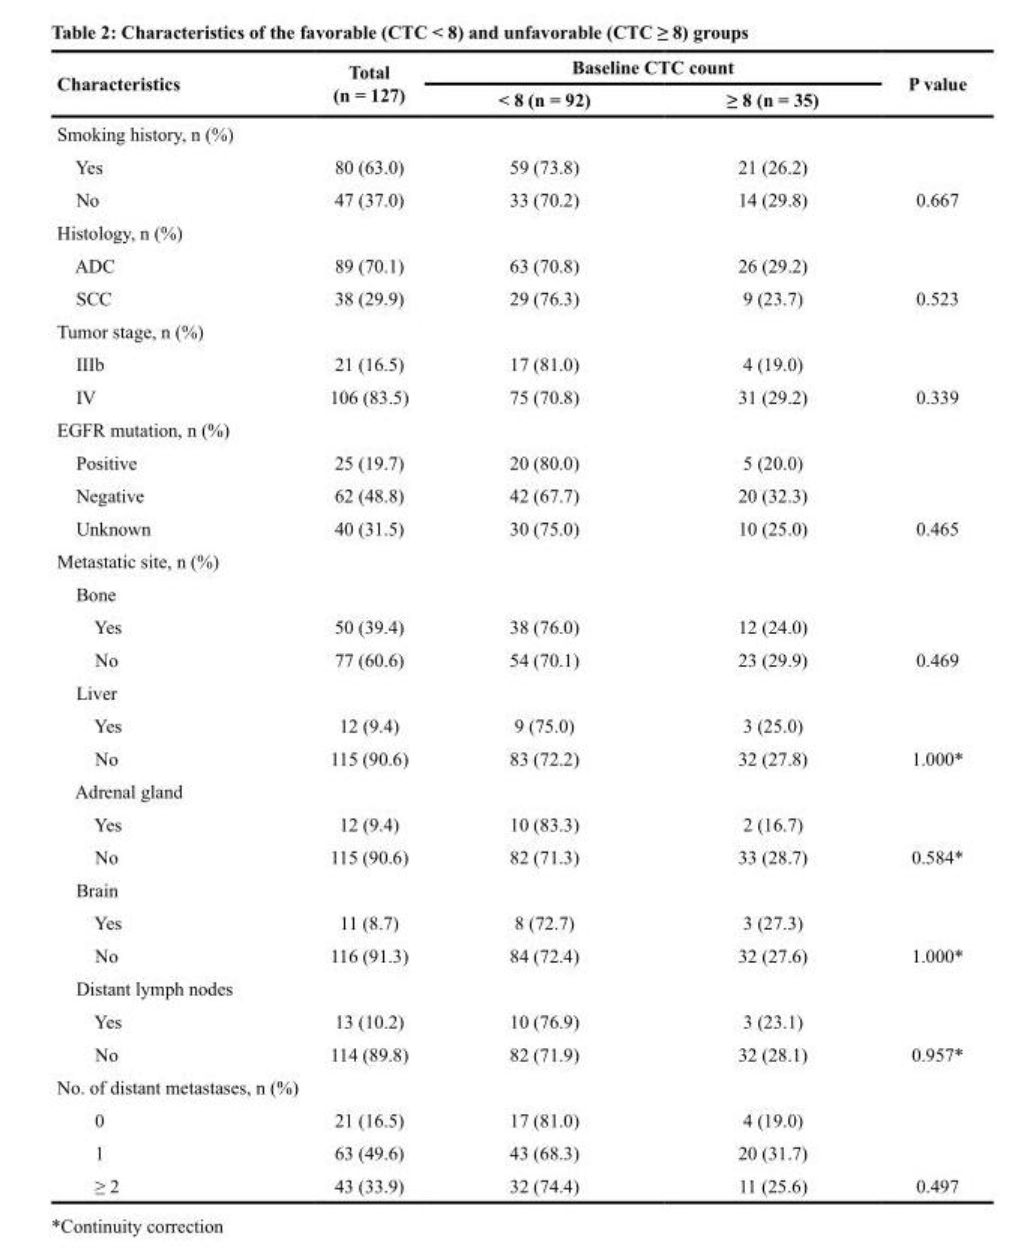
<table><thead><tr><td rowspan="2">Characteristics</td><td rowspan="2">Total (n = 127)</td><td colspan="2">Baseline CTC count</td><td rowspan="2">P value</td></tr><tr><td>&lt; 8 (n = 92)</td><td>≥ 8 (n = 35)</td></tr></thead><tbody><tr><td colspan="5">Smoking history, n (%)</td></tr><tr><td>Yes</td><td>80 (63.0)</td><td>59 (73.8)</td><td>21 (26.2)</td><td></td></tr><tr><td>No</td><td>47 (37.0)</td><td>33 (70.2)</td><td>14 (29.8)</td><td>0.667</td></tr><tr><td colspan="5">Histology, n (%)</td></tr><tr><td>ADC</td><td>89 (70.1)</td><td>63 (70.8)</td><td>26 (29.2)</td><td></td></tr><tr><td>SCC</td><td>38 (29.9)</td><td>29 (76.3)</td><td>9 (23.7)</td><td>0.523</td></tr><tr><td colspan="5">Tumor stage, n (%)</td></tr><tr><td>IIIb</td><td>21 (16.5)</td><td>17 (81.0)</td><td>4 (19.0)</td><td></td></tr><tr><td>IV</td><td>106 (83.5)</td><td>75 (70.8)</td><td>31 (29.2)</td><td>0.339</td></tr><tr><td colspan="5">EGFR mutation, n (%)</td></tr><tr><td>Positive</td><td>25 (19.7)</td><td>20 (80.0)</td><td>5 (20.0)</td><td></td></tr><tr><td>Negative</td><td>62 (48.8)</td><td>42 (67.7)</td><td>20 (32.3)</td><td></td></tr><tr><td>Unknown</td><td>40 (31.5)</td><td>30 (75.0)</td><td>10 (25.0)</td><td>0.465</td></tr><tr><td colspan="5">Metastatic site, n (%)</td></tr><tr><td colspan="5">Bone</td></tr><tr><td>Yes</td><td>50 (39.4)</td><td>38 (76.0)</td><td>12 (24.0)</td><td></td></tr><tr><td>No</td><td>77 (60.6)</td><td>54 (70.1)</td><td>23 (29.9)</td><td>0.469</td></tr><tr><td colspan="5">Liver</td></tr><tr><td>Yes</td><td>12 (9.4)</td><td>9 (75.0)</td><td>3 (25.0)</td><td></td></tr><tr><td>No</td><td>115 (90.6)</td><td>83 (72.2)</td><td>32 (27.8)</td><td>1.000*</td></tr><tr><td colspan="5">Adrenal gland</td></tr><tr><td>Yes</td><td>12 (9.4)</td><td>10 (83.3)</td><td>2 (16.7)</td><td></td></tr><tr><td>No</td><td>115 (90.6)</td><td>82 (71.3)</td><td>33 (28.7)</td><td>0.584*</td></tr><tr><td colspan="5">Brain</td></tr><tr><td>Yes</td><td>11 (8.7)</td><td>8 (72.7)</td><td>3 (27.3)</td><td></td></tr><tr><td>No</td><td>116 (91.3)</td><td>84 (72.4)</td><td>32 (27.6)</td><td>1.000*</td></tr><tr><td colspan="5">Distant lymph nodes</td></tr><tr><td>Yes</td><td>13 (10.2)</td><td>10 (76.9)</td><td>3 (23.1)</td><td></td></tr><tr><td>No</td><td>114 (89.8)</td><td>82 (71.9)</td><td>32 (28.1)</td><td>0.957*</td></tr><tr><td colspan="5">No. of distant metastases, n (%)</td></tr><tr><td>0</td><td>21 (16.5)</td><td>17 (81.0)</td><td>4 (19.0)</td><td></td></tr><tr><td>1</td><td>63 (49.6)</td><td>43 (68.3)</td><td>20 (31.7)</td><td></td></tr><tr><td>≥ 2</td><td>43 (33.9)</td><td>32 (74.4)</td><td>11 (25.6)</td><td>0.497</td></tr></tbody></table>